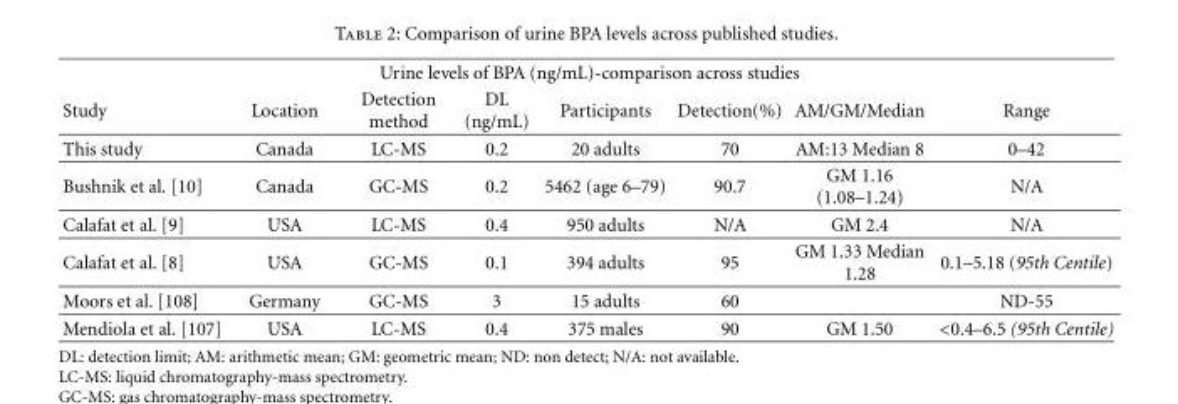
<table><thead><tr><td colspan="8">Urine levels of BPA (ng/mL)-comparison across studies</td></tr><tr><td>Study</td><td>Location</td><td>Detection method</td><td>DL (ng/mL)</td><td>Participants</td><td>Detection(%)</td><td>AM/GM/Median</td><td>Range</td></tr></thead><tbody><tr><td>This study</td><td>Canada</td><td>LC-MS</td><td>0.2</td><td>20 adults</td><td>70</td><td>AM:13 Median 8</td><td>0–42</td></tr><tr><td>Bushnik et al. [10]</td><td>Canada</td><td>GC-MS</td><td>0.2</td><td>5462 (age 6–79)</td><td>90.7</td><td>GM 1.16 (1.08–1.24)</td><td>N/A</td></tr><tr><td>Calafat et al. [9]</td><td>USA</td><td>LC-MS</td><td>0.4</td><td>950 adults</td><td>N/A</td><td>GM 2.4</td><td>N/A</td></tr><tr><td>Calafat et al. [8]</td><td>USA</td><td>GC-MS</td><td>0.1</td><td>394 adults</td><td>95</td><td>GM 1.33 Median 1.28</td><td>0.1–5.18 (95th Centile)</td></tr><tr><td>Moors et al. [108]</td><td>Germany</td><td>GC-MS</td><td>3</td><td>15 adults</td><td>60</td><td></td><td>ND-55</td></tr><tr><td>Mendiola et al. [107]</td><td>USA</td><td>LC-MS</td><td>0.4</td><td>375 males</td><td>90</td><td>GM 1.50</td><td>&lt;0.4–6.5 (95th Centile)</td></tr></tbody></table>